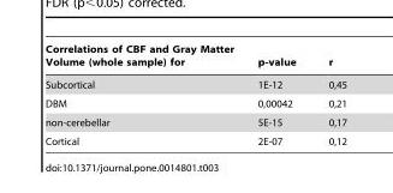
<table><thead><tr><td>Correlations of CBF and Gray Matter Volume (whole sample) for</td><td>p-value</td><td>r</td></tr></thead><tbody><tr><td>Subcortical</td><td>1E-12</td><td>0,45</td></tr><tr><td>DBM</td><td>0,00042</td><td>0,21</td></tr><tr><td>non-cerebellar</td><td>5E-15</td><td>0,17</td></tr><tr><td>Cortical</td><td>2E-07</td><td>0,12</td></tr></tbody></table>